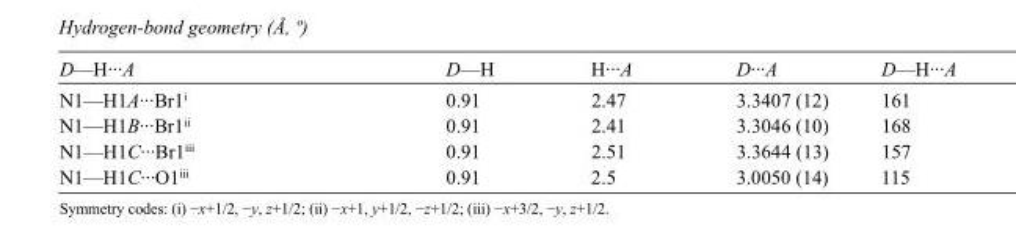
<table><tbody><tr><td>D—H···A</td><td>D—H</td><td>H···A</td><td>D···A</td><td>D—H···A</td></tr><tr><td>N1—H1A···Br1<sup>i</sup></td><td>0.91</td><td>2.47</td><td>3.3407 (12)</td><td>161</td></tr><tr><td>N1—H1B···Br1<sup>ii</sup></td><td>0.91</td><td>2.41</td><td>3.3046 (10)</td><td>168</td></tr><tr><td>N1—H1C···Br1<sup>iii</sup></td><td>0.91</td><td>2.51</td><td>3.3644 (13)</td><td>157</td></tr><tr><td>N1—H1C···O1<sup>iii</sup></td><td>0.91</td><td>2.5</td><td>3.0050 (14)</td><td>115</td></tr></tbody></table>